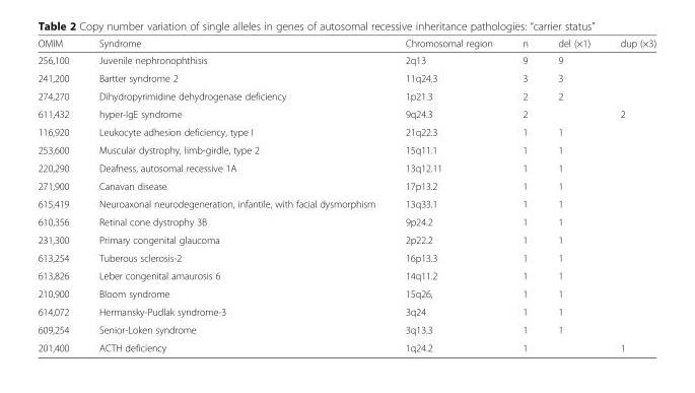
<table><thead><tr><td>OMIM</td><td>Syndrome</td><td>Chromosomal region</td><td>n</td><td>del (×1)</td><td>dup (×3)</td></tr></thead><tbody><tr><td>256,100</td><td>Juvenile nephronophthisis</td><td>2q13</td><td>9</td><td>9</td><td></td></tr><tr><td>241,200</td><td>Bartter syndrome 2</td><td>11q24.3</td><td>3</td><td>3</td><td></td></tr><tr><td>274,270</td><td>Dihydropyrimidine dehydrogenase deficiency</td><td>1p21.3</td><td>2</td><td>2</td><td></td></tr><tr><td>611,432</td><td>hyper-IgE syndrome</td><td>9q24.3</td><td>2</td><td></td><td>2</td></tr><tr><td>116,920</td><td>Leukocyte adhesion deficiency, type I</td><td>21q22.3</td><td>1</td><td>1</td><td></td></tr><tr><td>253,600</td><td>Muscular dystrophy, limb-girdle, type 2</td><td>15q11.1</td><td>1</td><td>1</td><td></td></tr><tr><td>220,290</td><td>Deafness, autosomal recessive 1A</td><td>13q12.11</td><td>1</td><td>1</td><td></td></tr><tr><td>271,900</td><td>Canavan disease</td><td>17p13.2</td><td>1</td><td>1</td><td></td></tr><tr><td>615,419</td><td>Neuroaxonal neurodegeneration, infantile, with facial dysmorphism</td><td>13q33.1</td><td>1</td><td>1</td><td></td></tr><tr><td>610,356</td><td>Retinal cone dystrophy 3B</td><td>9p24.2</td><td>1</td><td>1</td><td></td></tr><tr><td>231,300</td><td>Primary congenital glaucoma</td><td>2p22.2</td><td>1</td><td>1</td><td></td></tr><tr><td>613,254</td><td>Tuberous sclerosis-2</td><td>16p13.3</td><td>1</td><td>1</td><td></td></tr><tr><td>613,826</td><td>Leber congenital amaurosis 6</td><td>14q11.2</td><td>1</td><td>1</td><td></td></tr><tr><td>210,900</td><td>Bloom syndrome</td><td>15q26,</td><td>1</td><td>1</td><td></td></tr><tr><td>614,072</td><td>Hermansky-Pudlak syndrome-3</td><td>3q24</td><td>1</td><td>1</td><td></td></tr><tr><td>609,254</td><td>Senior-Loken syndrome</td><td>3q13.3</td><td>1</td><td>1</td><td></td></tr><tr><td>201,400</td><td>ACTH deficiency</td><td>1q24.2</td><td>1</td><td></td><td>1</td></tr></tbody></table>